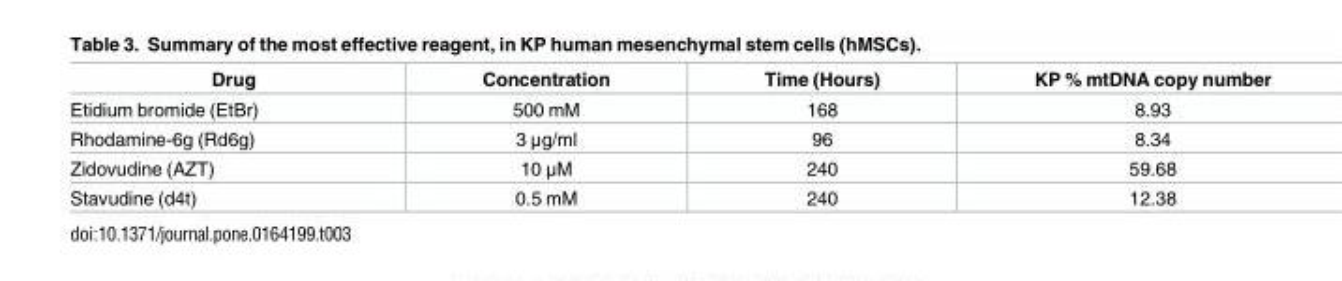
<table><thead><tr><td>Drug</td><td>Concentration</td><td>Time (Hours)</td><td>KP % mtDNA copy number</td></tr></thead><tbody><tr><td>Etidium bromide (EtBr)</td><td>500 mM</td><td>168</td><td>8.93</td></tr><tr><td>Rhodamine-6g (Rd6g)</td><td>3 μg/ml</td><td>96</td><td>8.34</td></tr><tr><td>Zidovudine (AZT)</td><td>10 μM</td><td>240</td><td>59.68</td></tr><tr><td>Stavudine (d4t)</td><td>0.5 mM</td><td>240</td><td>12.38</td></tr></tbody></table>